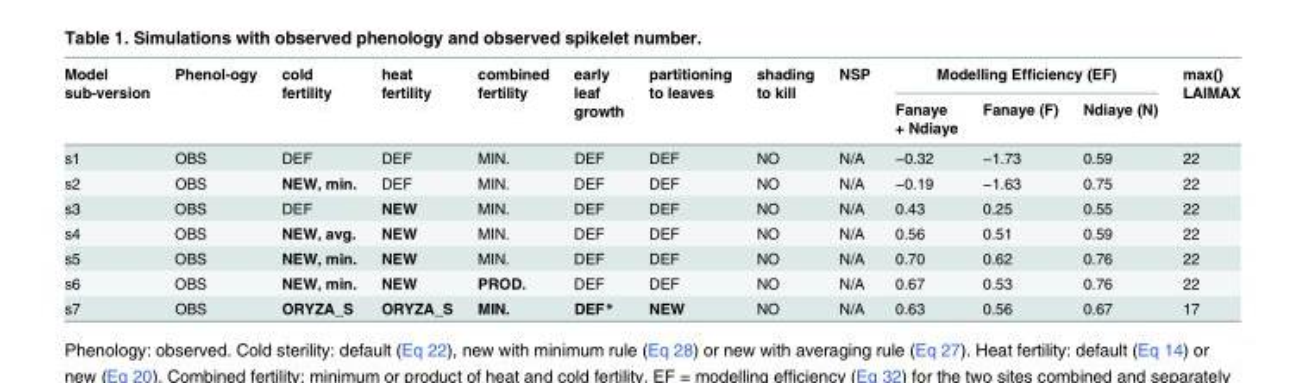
<table><thead><tr><td rowspan="2">Model sub-version</td><td rowspan="2">Phenol-ogy</td><td rowspan="2">cold fertility</td><td rowspan="2">heat fertility</td><td rowspan="2">combined fertility</td><td rowspan="2">early leaf growth</td><td rowspan="2">partitioning to leaves</td><td rowspan="2">shading to kill</td><td rowspan="2">NSP</td><td colspan="3">Modelling Efficiency (EF)</td><td rowspan="2">max() LAIMAX</td></tr><tr><td>Fanaye + Ndiaye</td><td>Fanaye (F)</td><td>Ndiaye (N)</td></tr></thead><tbody><tr><td>s1</td><td>OBS</td><td>DEF</td><td>DEF</td><td>MIN.</td><td>DEF</td><td>DEF</td><td>NO</td><td>N/A</td><td>−0.32</td><td>−1.73</td><td>0.59</td><td>22</td></tr><tr><td>s2</td><td>OBS</td><td>NEW, min.</td><td>DEF</td><td>MIN.</td><td>DEF</td><td>DEF</td><td>NO</td><td>N/A</td><td>−0.19</td><td>−1.63</td><td>0.75</td><td>22</td></tr><tr><td>s3</td><td>OBS</td><td>DEF</td><td>NEW</td><td>MIN.</td><td>DEF</td><td>DEF</td><td>NO</td><td>N/A</td><td>0.43</td><td>0.25</td><td>0.55</td><td>22</td></tr><tr><td>s4</td><td>OBS</td><td>NEW, avg.</td><td>NEW</td><td>MIN.</td><td>DEF</td><td>DEF</td><td>NO</td><td>N/A</td><td>0.56</td><td>0.51</td><td>0.59</td><td>22</td></tr><tr><td>s5</td><td>OBS</td><td>NEW, min.</td><td>NEW</td><td>MIN.</td><td>DEF</td><td>DEF</td><td>NO</td><td>N/A</td><td>0.70</td><td>0.62</td><td>0.76</td><td>22</td></tr><tr><td>s6</td><td>OBS</td><td>NEW, min.</td><td>NEW</td><td>PROD.</td><td>DEF</td><td>DEF</td><td>NO</td><td>N/A</td><td>0.67</td><td>0.53</td><td>0.76</td><td>22</td></tr><tr><td>s7</td><td>OBS</td><td>ORYZA_S</td><td>ORYZA_S</td><td>MIN.</td><td>DEF*</td><td>NEW</td><td>NO</td><td>N/A</td><td>0.63</td><td>0.56</td><td>0.67</td><td>17</td></tr></tbody></table>